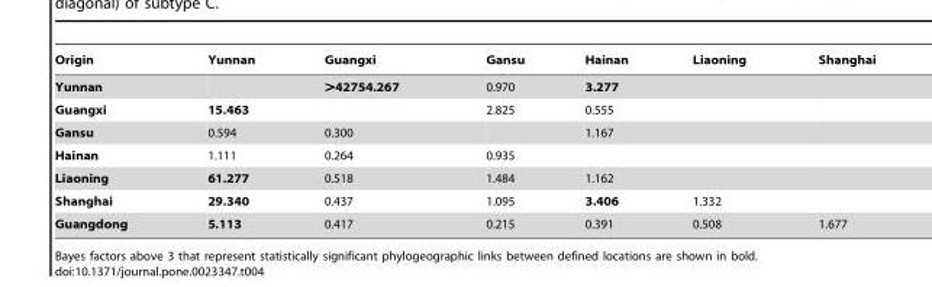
<table><thead><tr><td>Origin</td><td>Yunnan</td><td>Guangxi</td><td>Gansu</td><td>Hainan</td><td>Liaoning</td><td>Shanghai</td></tr></thead><tbody><tr><td>Yunnan</td><td></td><td>&gt;42754.267</td><td>0.970</td><td>3.277</td><td></td><td></td></tr><tr><td>Guangxi</td><td>15.463</td><td></td><td>2.825</td><td>0.555</td><td></td><td></td></tr><tr><td>Gansu</td><td>0.594</td><td>0.300</td><td></td><td>1.167</td><td></td><td></td></tr><tr><td>Hainan</td><td>1.111</td><td>0.264</td><td>0.935</td><td></td><td></td><td></td></tr><tr><td>Liaoning</td><td>61.277</td><td>0.518</td><td>1.484</td><td>1.162</td><td></td><td></td></tr><tr><td>Shanghai</td><td>29.340</td><td>0.437</td><td>1.095</td><td>3.406</td><td>1.332</td><td></td></tr><tr><td>Guangdong</td><td>5.113</td><td>0.417</td><td>0.215</td><td>0.391</td><td>0.508</td><td>1.677</td></tr></tbody></table>